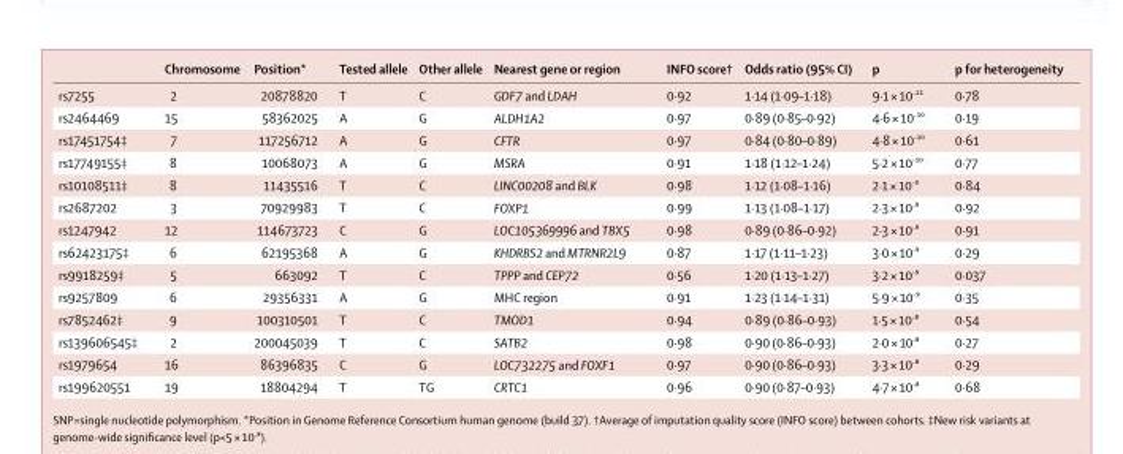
<table><thead><tr><td></td><td>Chromosome</td><td>Position*</td><td>Tested allele</td><td>Other allele</td><td>Nearest gene or region</td><td>INFO score†</td><td>Odds ratio (95% CI)</td><td>p</td><td>p for heterogeneity</td></tr></thead><tbody><tr><td>rs7255</td><td>2</td><td>20878820</td><td>T</td><td>C</td><td>GDF7 and LDAH</td><td>0·92</td><td>1·14 (1·09–1·18)</td><td>9·1 × 10<sup>–</sup>¹¹</td><td>0·78</td></tr><tr><td>rs2464469</td><td>15</td><td>58362025</td><td>A</td><td>G</td><td>ALDH1A2</td><td>0·97</td><td>0·89 (0·85–0·92)</td><td>4·6 × 10<sup>–</sup>¹⁰</td><td>0·19</td></tr><tr><td>rs17451754‡</td><td>7</td><td>117256712</td><td>A</td><td>G</td><td>CFTR</td><td>0·97</td><td>0·84 (0·80–0·89)</td><td>4·8 × 10<sup>–</sup>¹⁰</td><td>0·61</td></tr><tr><td>rs17749155‡</td><td>8</td><td>10068073</td><td>A</td><td>G</td><td>MSRA</td><td>0·91</td><td>1·18 (1·12–1·24)</td><td>5·2 × 10<sup>–</sup>¹⁰</td><td>0·77</td></tr><tr><td>rs10108511‡</td><td>8</td><td>11435516</td><td>T</td><td>C</td><td>LINC00208 and BLK</td><td>0·98</td><td>1·12 (1·08–1·16)</td><td>2·1 × 10<sup>–</sup>⁹</td><td>0·84</td></tr><tr><td>rs2687202</td><td>3</td><td>70929983</td><td>T</td><td>C</td><td>FOXP1</td><td>0·99</td><td>1·13 (1·08–1·17)</td><td>2·3 × 10<sup>–</sup>⁹</td><td>0·92</td></tr><tr><td>rs1247942</td><td>12</td><td>114673723</td><td>C</td><td>G</td><td>LOC105369996 and TBX5</td><td>0·98</td><td>0·89 (0·86–0·92)</td><td>2·3 × 10<sup>–</sup>⁹</td><td>0·91</td></tr><tr><td>rs62423175‡</td><td>6</td><td>62195368</td><td>A</td><td>G</td><td>KHDRBS2 and MTRNR2L9</td><td>0·87</td><td>1·17 (1·11–1·23)</td><td>3·0 × 10<sup>–</sup>⁹</td><td>0·29</td></tr><tr><td>rs9918259‡</td><td>5</td><td>663092</td><td>T</td><td>C</td><td>TPPP and CEP72</td><td>0·56</td><td>1·20 (1·13–1·27)</td><td>3·2 × 10<sup>–</sup>⁹</td><td>0·037</td></tr><tr><td>rs9257809</td><td>6</td><td>29356331</td><td>A</td><td>G</td><td>MHC region</td><td>0·91</td><td>1·23 (1·14–1·31)</td><td>5·9 × 10<sup>–</sup>⁹</td><td>0·35</td></tr><tr><td>rs7852462‡</td><td>9</td><td>100310501</td><td>T</td><td>C</td><td>TMOD1</td><td>0·94</td><td>0·89 (0·86–0·93)</td><td>1·5 × 10<sup>–</sup>⁸</td><td>0·54</td></tr><tr><td>rs139606545‡</td><td>2</td><td>200045039</td><td>T</td><td>C</td><td>SATB2</td><td>0·98</td><td>0·90 (0·86–0·93)</td><td>2·0 × 10<sup>–</sup>⁸</td><td>0·27</td></tr><tr><td>rs1979654</td><td>16</td><td>86396835</td><td>C</td><td>G</td><td>LOC732275 and FOXF1</td><td>0·97</td><td>0·90 (0·86–0·93)</td><td>3·3 × 10<sup>–</sup>⁸</td><td>0·29</td></tr><tr><td>rs199620551</td><td>19</td><td>18804294</td><td>T</td><td>TG</td><td>CRTC1</td><td>0·96</td><td>0·90 (0·87–0·93)</td><td>4·7 × 10<sup>–</sup>⁸</td><td>0·68</td></tr></tbody></table>